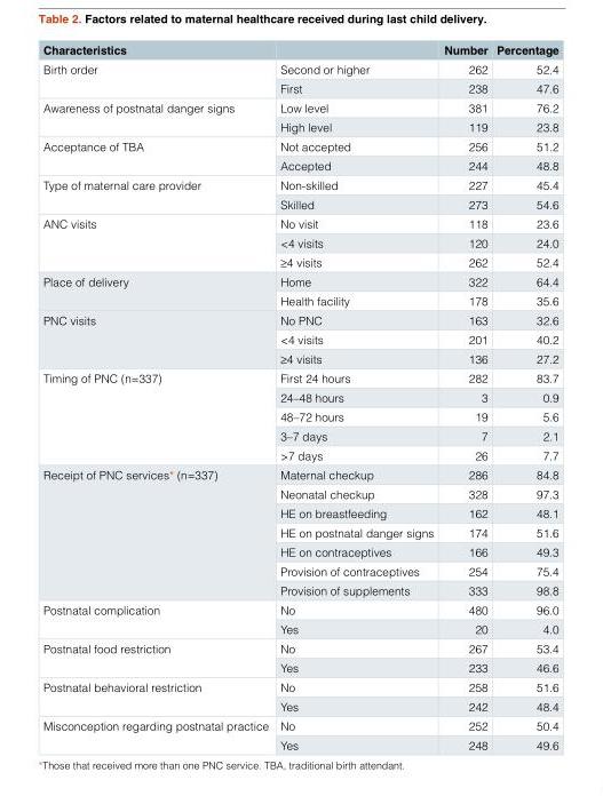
<table><thead><tr><td>Characteristics</td><td></td><td>Number</td><td>Percentage</td></tr></thead><tbody><tr><td rowspan="2">Birth order</td><td>Second or higher</td><td>262</td><td>52.4</td></tr><tr><td>First</td><td>238</td><td>47.6</td></tr><tr><td rowspan="2">Awareness of postnatal danger signs</td><td>Low level</td><td>381</td><td>76.2</td></tr><tr><td>High level</td><td>119</td><td>23.8</td></tr><tr><td rowspan="2">Acceptance of TBA</td><td>Not accepted</td><td>256</td><td>51.2</td></tr><tr><td>Accepted</td><td>244</td><td>48.8</td></tr><tr><td rowspan="2">Type of maternal care provider</td><td>Non-skilled</td><td>227</td><td>45.4</td></tr><tr><td>Skilled</td><td>273</td><td>54.6</td></tr><tr><td rowspan="3">ANC visits</td><td>No visit</td><td>118</td><td>23.6</td></tr><tr><td>&lt;4 visits</td><td>120</td><td>24.0</td></tr><tr><td>≥4 visits</td><td>262</td><td>52.4</td></tr><tr><td rowspan="2">Place of delivery</td><td>Home</td><td>322</td><td>64.4</td></tr><tr><td>Health facility</td><td>178</td><td>35.6</td></tr><tr><td rowspan="3">PNC visits</td><td>No PNC</td><td>163</td><td>32.6</td></tr><tr><td>&lt;4 visits</td><td>201</td><td>40.2</td></tr><tr><td>≥4 visits</td><td>136</td><td>27.2</td></tr><tr><td rowspan="5">Timing of PNC (n=337)</td><td>First 24 hours</td><td>282</td><td>83.7</td></tr><tr><td>24–48 hours</td><td>3</td><td>0.9</td></tr><tr><td>48–72 hours</td><td>19</td><td>5.6</td></tr><tr><td>3–7 days</td><td>7</td><td>2.1</td></tr><tr><td>&gt;7 days</td><td>26</td><td>7.7</td></tr><tr><td rowspan="7">Receipt of PNC services* (n=337)</td><td>Maternal checkup</td><td>286</td><td>84.8</td></tr><tr><td>Neonatal checkup</td><td>328</td><td>97.3</td></tr><tr><td>HE on breastfeeding</td><td>162</td><td>48.1</td></tr><tr><td>HE on postnatal danger signs</td><td>174</td><td>51.6</td></tr><tr><td>HE on contraceptives</td><td>166</td><td>49.3</td></tr><tr><td>Provision of contraceptives</td><td>254</td><td>75.4</td></tr><tr><td>Provision of supplements</td><td>333</td><td>98.8</td></tr><tr><td rowspan="2">Postnatal complication</td><td>No</td><td>480</td><td>96.0</td></tr><tr><td>Yes</td><td>20</td><td>4.0</td></tr><tr><td rowspan="2">Postnatal food restriction</td><td>No</td><td>267</td><td>53.4</td></tr><tr><td>Yes</td><td>233</td><td>46.6</td></tr><tr><td rowspan="2">Postnatal behavioral restriction</td><td>No</td><td>258</td><td>51.6</td></tr><tr><td>Yes</td><td>242</td><td>48.4</td></tr><tr><td rowspan="2">Misconception regarding postnatal practice</td><td>No</td><td>252</td><td>50.4</td></tr><tr><td>Yes</td><td>248</td><td>49.6</td></tr></tbody></table>